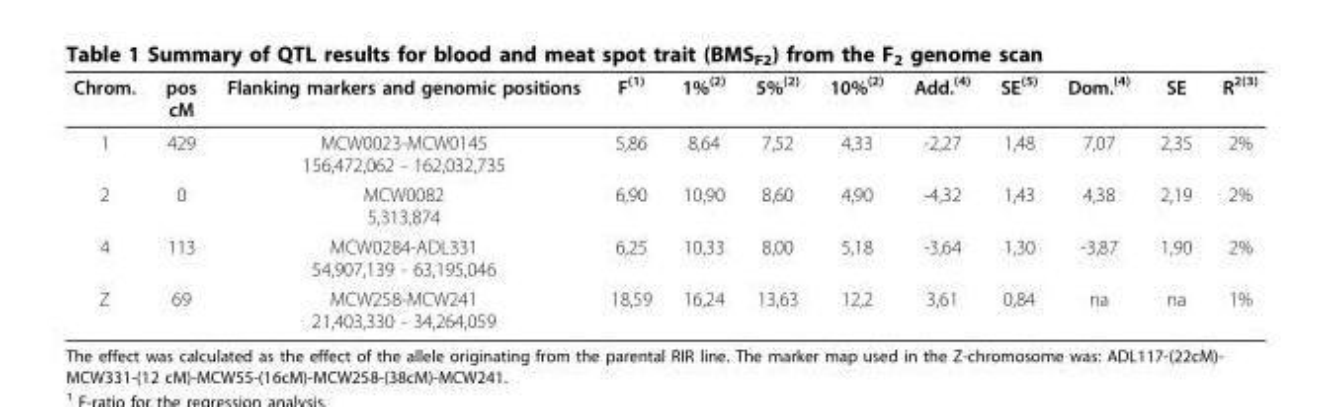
<table><thead><tr><td>Chrom.</td><td>pos cM</td><td>Flanking markers and genomic positions</td><td>F<sup>(1)</sup></td><td>1%<sup>(2)</sup></td><td>5%<sup>(2)</sup></td><td>10%<sup>(2)</sup></td><td>Add.<sup>(4)</sup></td><td>SE<sup>(5)</sup></td><td>Dom.<sup>(4)</sup></td><td>SE</td><td>R<sup>2(3)</sup></td></tr></thead><tbody><tr><td>1</td><td>429</td><td>MCW0023-MCW0145 156,472,062 - 162,032,735</td><td>5,86</td><td>8,64</td><td>7,52</td><td>4,33</td><td>-2,27</td><td>1,48</td><td>7,07</td><td>2,35</td><td>2%</td></tr><tr><td>2</td><td>0</td><td>MCW0082 5,313,874</td><td>6,90</td><td>10,90</td><td>8,60</td><td>4,90</td><td>-4,32</td><td>1,43</td><td>4,38</td><td>2,19</td><td>2%</td></tr><tr><td>4</td><td>113</td><td>MCW0284-ADL331 54,907,139 - 63,195,046</td><td>6,25</td><td>10,33</td><td>8,00</td><td>5,18</td><td>-3,64</td><td>1,30</td><td>-3,87</td><td>1,90</td><td>2%</td></tr><tr><td>Z</td><td>69</td><td>MCW258-MCW241 21,403,330 - 34,264,059</td><td>18,59</td><td>16,24</td><td>13,63</td><td>12,2</td><td>3,61</td><td>0,84</td><td>na</td><td>na</td><td>1%</td></tr></tbody></table>